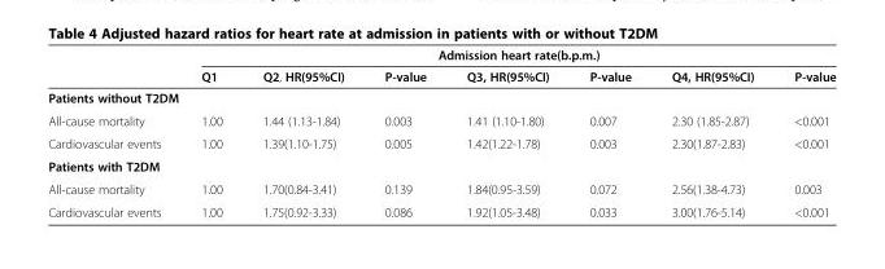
<table><thead><tr><td rowspan="2"></td><td colspan="7">Admission heart rate(b.p.m.)</td></tr><tr><td>Q1</td><td>Q2, HR(95%CI)</td><td>P-value</td><td>Q3, HR(95%CI)</td><td>P-value</td><td>Q4, HR(95%CI)</td><td>P-value</td></tr></thead><tbody><tr><td colspan="8">Patients without T2DM</td></tr><tr><td>All-cause mortality</td><td>1.00</td><td>1.44 (1.13-1.84)</td><td>0.003</td><td>1.41 (1.10-1.80)</td><td>0.007</td><td>2.30 (1.85-2.87)</td><td>&lt;0.001</td></tr><tr><td>Cardiovascular events</td><td>1.00</td><td>1.39(1.10-1.75)</td><td>0.005</td><td>1.42(1.22-1.78)</td><td>0.003</td><td>2.30(1.87-2.83)</td><td>&lt;0.001</td></tr><tr><td colspan="8">Patients with T2DM</td></tr><tr><td>All-cause mortality</td><td>1.00</td><td>1.70(0.84-3.41)</td><td>0.139</td><td>1.84(0.95-3.59)</td><td>0.072</td><td>2.56(1.38-4.73)</td><td>0.003</td></tr><tr><td>Cardiovascular events</td><td>1.00</td><td>1.75(0.92-3.33)</td><td>0.086</td><td>1.92(1.05-3.48)</td><td>0.033</td><td>3.00(1.76-5.14)</td><td>&lt;0.001</td></tr></tbody></table>